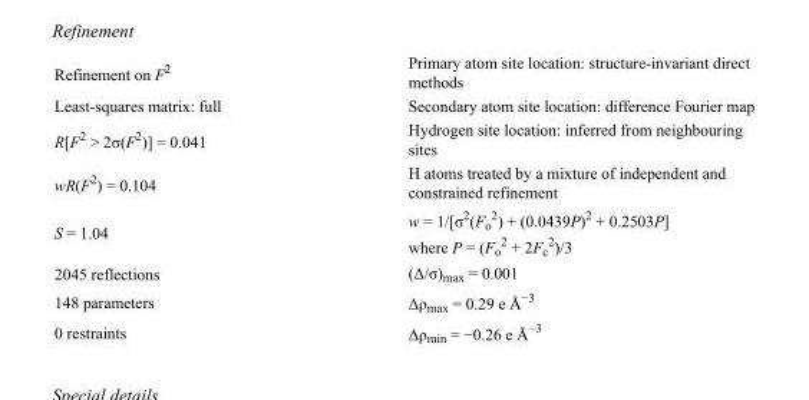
<table><tbody><tr><td>Refinement on F<sup>2</sup></td><td>Primary atom site location: structure-invariant direct methods</td></tr><tr><td>Least-squares matrix: full</td><td>Secondary atom site location: difference Fourier map</td></tr><tr><td>R[F<sup>2</sup> &gt; 2σ(F<sup>2</sup>)] = 0.041</td><td>Hydrogen site location: inferred from neighbouring sites</td></tr><tr><td>wR(F<sup>2</sup>) = 0.104</td><td>H atoms treated by a mixture of independent and constrained refinement</td></tr><tr><td>S = 1.04</td><td>w = 1/[σ<sup>2</sup>(F<sub>o</sub> <sup>2</sup>) + (0.0439P)<sup>2</sup> + 0.2503P] where P = (F<sub>o</sub> <sup>2</sup> + 2F<sub>c</sub> <sup>2</sup>)/3</td></tr><tr><td>2045 reflections</td><td>(Δ/σ)<sub>max</sub> = 0.001</td></tr><tr><td>148 parameters</td><td>Δρ<sub>max</sub> = 0.29 e Å<sup>−3</sup></td></tr><tr><td>0 restraints</td><td>Δρ<sub>min</sub> = −0.26 e Å<sup>−3</sup></td></tr></tbody></table>